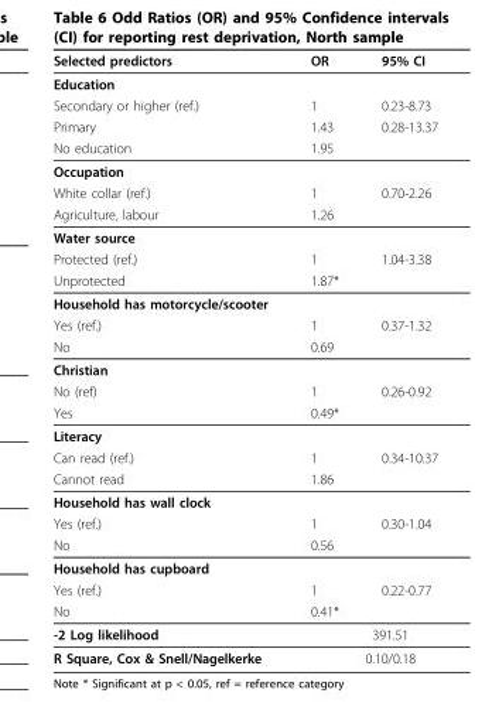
<table><thead><tr><td>Selected predictors</td><td>OR</td><td>95% CI</td></tr></thead><tbody><tr><td colspan="3">Education</td></tr><tr><td>Secondary or higher (ref.)</td><td>1</td><td>0.23-8.73</td></tr><tr><td>Primary</td><td>1.43</td><td>0.28-13.37</td></tr><tr><td>No education</td><td>1.95</td><td></td></tr><tr><td colspan="3">Occupation</td></tr><tr><td>White collar (ref.)</td><td>1</td><td>0.70-2.26</td></tr><tr><td>Agriculture, labour</td><td>1.26</td><td></td></tr><tr><td colspan="3">Water source</td></tr><tr><td>Protected (ref.)</td><td>1</td><td>1.04-3.38</td></tr><tr><td>Unprotected</td><td>1.87*</td><td></td></tr><tr><td colspan="3">Household has motorcycle/scooter</td></tr><tr><td>Yes (ref.)</td><td>1</td><td>0.37-1.32</td></tr><tr><td>No</td><td>0.69</td><td></td></tr><tr><td colspan="3">Christian</td></tr><tr><td>No (ref)</td><td>1</td><td>0.26-0.92</td></tr><tr><td>Yes</td><td>0.49*</td><td></td></tr><tr><td colspan="3">Literacy</td></tr><tr><td>Can read (ref.)</td><td>1</td><td>0.34-10.37</td></tr><tr><td>Cannot read</td><td>1.86</td><td></td></tr><tr><td colspan="3">Household has wall clock</td></tr><tr><td>Yes (ref.)</td><td>1</td><td>0.30-1.04</td></tr><tr><td>No</td><td>0.56</td><td></td></tr><tr><td colspan="3">Household has cupboard</td></tr><tr><td>Yes (ref.)</td><td>1</td><td>0.22-0.77</td></tr><tr><td>No</td><td>0.41*</td><td></td></tr><tr><td>-2 Log likelihood</td><td colspan="2">391.51</td></tr><tr><td>R Square, Cox &amp; Snell/Nagelkerke</td><td colspan="2">0.10/0.18</td></tr></tbody></table>